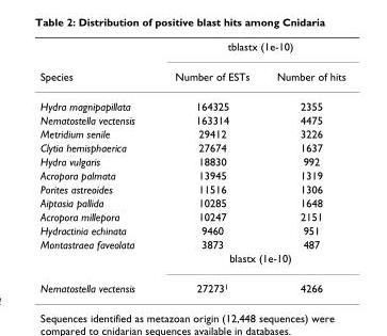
<table><thead><tr><td rowspan="2">Species</td><td colspan="2">tblastx (1e-10)</td></tr><tr><td>Number of ESTs</td><td>Number of hits</td></tr></thead><tbody><tr><td>Hydra magnipapillata</td><td>164325</td><td>2355</td></tr><tr><td>Nematostella vectensis</td><td>163314</td><td>4475</td></tr><tr><td>Metridium senile</td><td>29412</td><td>3226</td></tr><tr><td>Clytia hemisphaerica</td><td>27674</td><td>1637</td></tr><tr><td>Hydra vulgaris</td><td>18830</td><td>992</td></tr><tr><td>Acropora palmata</td><td>13945</td><td>1319</td></tr><tr><td>Porites astreoides</td><td>11516</td><td>1306</td></tr><tr><td>Aiptasia pallida</td><td>10285</td><td>1648</td></tr><tr><td>Acropora millepora</td><td>10247</td><td>2151</td></tr><tr><td>Hydractinia echinata</td><td>9460</td><td>951</td></tr><tr><td rowspan="2">Montastraea faveolata</td><td>3873</td><td>487</td></tr><tr><td colspan="2">blastx (1e-10)</td></tr><tr><td>Nematostella vectensis</td><td>27273<sup>1</sup></td><td>4266</td></tr></tbody></table>